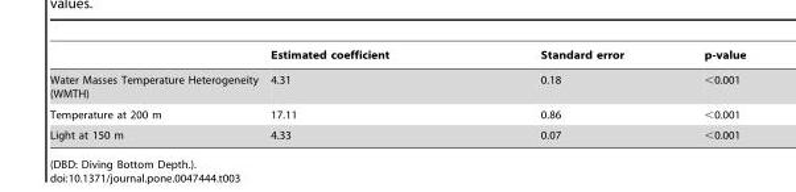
<table><thead><tr><td></td><td>Estimated coefficient</td><td>Standard error</td><td>p-value</td></tr></thead><tbody><tr><td>Water Masses Temperature Heterogeneity (WMTH)</td><td>4.31</td><td>0.18</td><td>&lt;0.001</td></tr><tr><td>Temperature at 200 m</td><td>17.11</td><td>0.86</td><td>&lt;0.001</td></tr><tr><td>Light at 150 m</td><td>4.33</td><td>0.07</td><td>&lt;0.001</td></tr></tbody></table>